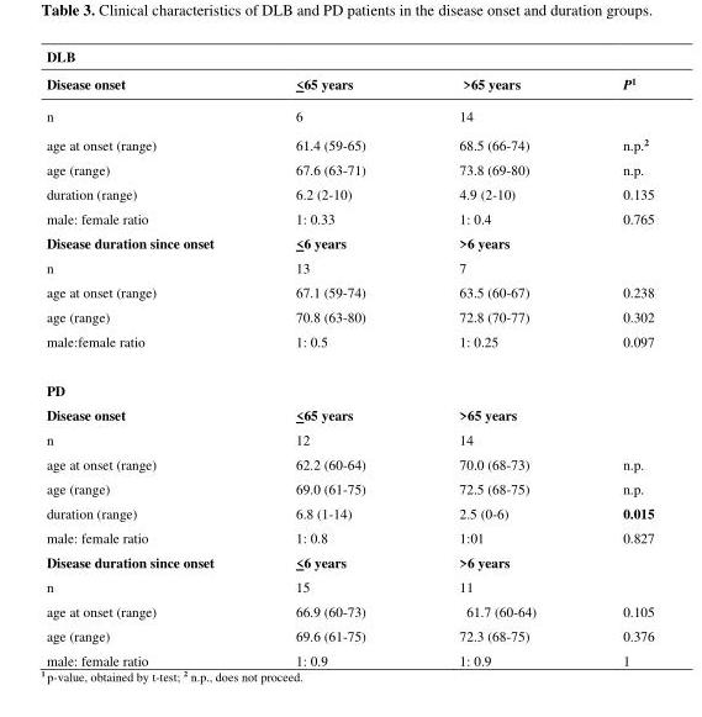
<table><thead><tr><td colspan="4">DLB</td></tr><tr><td>Disease onset</td><td>&lt;65 years</td><td>&gt;65 years</td><td>P<sup>1</sup></td></tr></thead><tbody><tr><td>n</td><td>6</td><td>14</td><td></td></tr><tr><td>age at onset (range)</td><td>61.4 (59-65)</td><td>68.5 (66-74)</td><td>n.p.<sup>2</sup></td></tr><tr><td>age (range)</td><td>67.6 (63-71)</td><td>73.8 (69-80)</td><td>n.p.</td></tr><tr><td>duration (range)</td><td>6.2 (2-10)</td><td>4.9 (2-10)</td><td>0.135</td></tr><tr><td>male: female ratio</td><td>1: 0.33</td><td>1: 0.4</td><td>0.765</td></tr><tr><td>Disease duration since onset</td><td>&lt;6 years</td><td>&gt;6 years</td><td></td></tr><tr><td>n</td><td>13</td><td>7</td><td></td></tr><tr><td>age at onset (range)</td><td>67.1 (59-74)</td><td>63.5 (60-67)</td><td>0.238</td></tr><tr><td>age (range)</td><td>70.8 (63-80)</td><td>72.8 (70-77)</td><td>0.302</td></tr><tr><td>male:female ratio</td><td>1: 0.5</td><td>1: 0.25</td><td>0.097</td></tr><tr><td colspan="4">PD</td></tr><tr><td>Disease onset</td><td>&lt;65 years</td><td>&gt;65 years</td><td></td></tr><tr><td>n</td><td>12</td><td>14</td><td></td></tr><tr><td>age at onset (range)</td><td>62.2 (60-64)</td><td>70.0 (68-73)</td><td>n.p.</td></tr><tr><td>age (range)</td><td>69.0 (61-75)</td><td>72.5 (68-75)</td><td>n.p.</td></tr><tr><td>duration (range)</td><td>6.8 (1-14)</td><td>2.5 (0-6)</td><td>0.015</td></tr><tr><td>male: female ratio</td><td>1: 0.8</td><td>1:01</td><td>0.827</td></tr><tr><td>Disease duration since onset</td><td>&lt;6 years</td><td>&gt;6 years</td><td></td></tr><tr><td>n</td><td>15</td><td>11</td><td></td></tr><tr><td>age at onset (range)</td><td>66.9 (60-73)</td><td>61.7 (60-64)</td><td>0.105</td></tr><tr><td>age (range)</td><td>69.6 (61-75)</td><td>72.3 (68-75)</td><td>0.376</td></tr><tr><td>male: female ratio</td><td>1: 0.9</td><td>1: 0.9</td><td>1</td></tr></tbody></table>